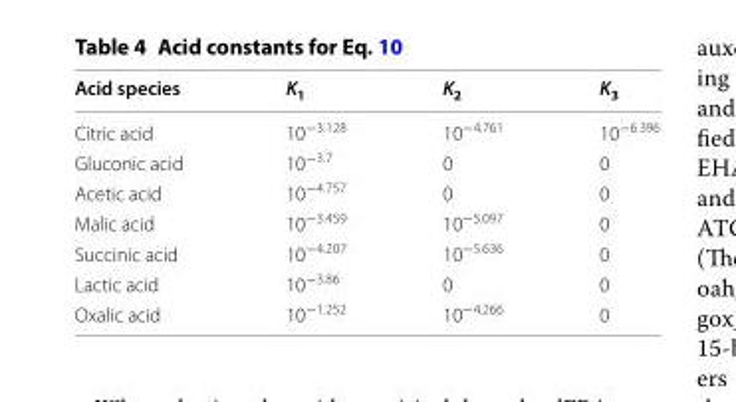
<table><thead><tr><td>Acid species</td><td>K<sub>1</sub></td><td>K<sub>2</sub></td><td>K<sub>3</sub></td></tr></thead><tbody><tr><td>Citric acid</td><td>10<sup>−3.128</sup></td><td>10<sup>−4.761</sup></td><td>10<sup>−6.396</sup></td></tr><tr><td>Gluconic acid</td><td>10<sup>−3.7</sup></td><td>0</td><td>0</td></tr><tr><td>Acetic acid</td><td>10<sup>−4.757</sup></td><td>0</td><td>0</td></tr><tr><td>Malic acid</td><td>10<sup>−3.459</sup></td><td>10<sup>−5.097</sup></td><td>0</td></tr><tr><td>Succinic acid</td><td>10<sup>−4.207</sup></td><td>10<sup>−5.636</sup></td><td>0</td></tr><tr><td>Lactic acid</td><td>10<sup>−3.86</sup></td><td>0</td><td>0</td></tr><tr><td>Oxalic acid</td><td>10<sup>−1.252</sup></td><td>10<sup>−4.266</sup></td><td>0</td></tr></tbody></table>